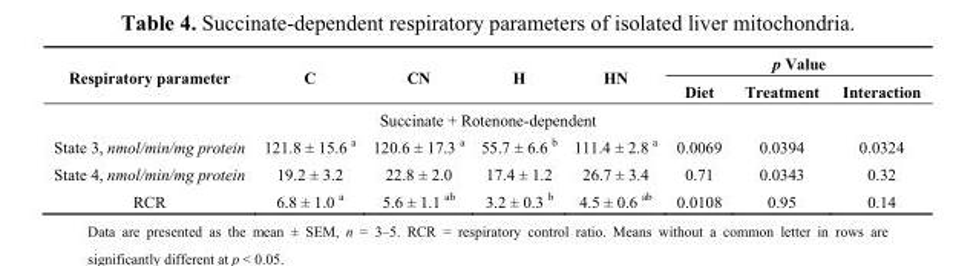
<table><thead><tr><td rowspan="2">Respiratory parameter</td><td rowspan="2">C</td><td rowspan="2">CN</td><td rowspan="2">H</td><td rowspan="2">HN</td><td colspan="3">p Value</td></tr><tr><td>Diet</td><td>Treatment</td><td>Interaction</td></tr></thead><tbody><tr><td colspan="8">Succinate + Rotenone-dependent</td></tr><tr><td>State 3, nmol/min/mg protein</td><td>121.8 ± 15.6 <sup>a</sup></td><td>120.6 ± 17.3 <sup>a</sup></td><td>55.7 ± 6.6 <sup>b</sup></td><td>111.4 ± 2.8 <sup>a</sup></td><td>0.0069</td><td>0.0394</td><td>0.0324</td></tr><tr><td>State 4, nmol/min/mg protein</td><td>19.2 ± 3.2</td><td>22.8 ± 2.0</td><td>17.4 ± 1.2</td><td>26.7 ± 3.4</td><td>0.71</td><td>0.0343</td><td>0.32</td></tr><tr><td>RCR</td><td>6.8 ± 1.0 <sup>a</sup></td><td>5.6 ± 1.1 <sup>ab</sup></td><td>3.2 ± 0.3 <sup>b</sup></td><td>4.5 ± 0.6 <sup>ab</sup></td><td>0.0108</td><td>0.95</td><td>0.14</td></tr></tbody></table>